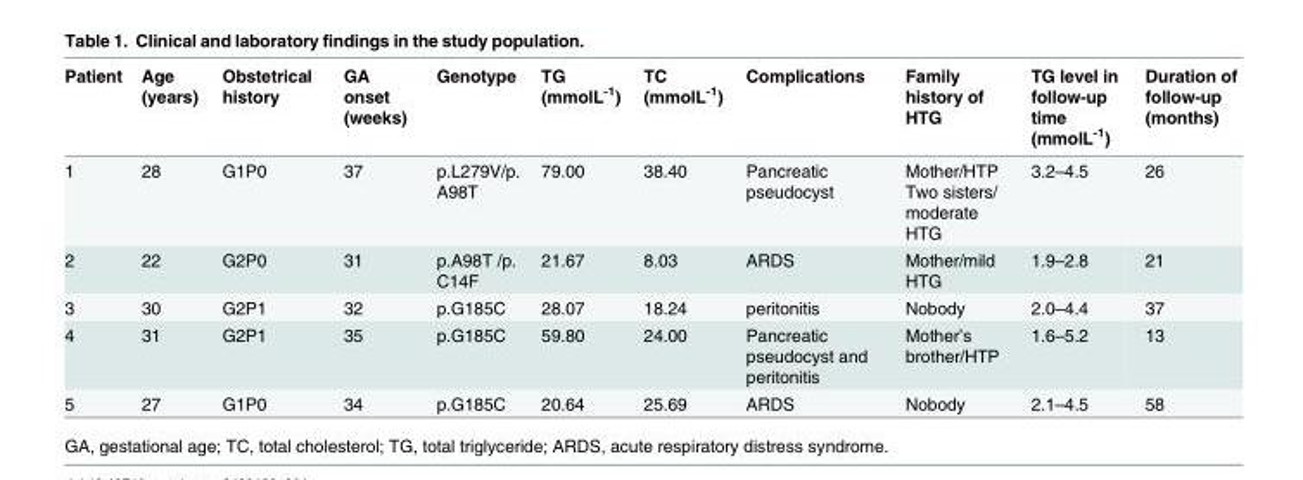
<table><thead><tr><td>Patient</td><td>Age (years)</td><td>Obstetrical history</td><td>GA onset (weeks)</td><td>Genotype</td><td>TG (mmolL<sup>-1</sup>)</td><td>TC (mmolL<sup>-1</sup>)</td><td>Complications</td><td>Family history of HTG</td><td>TG level in follow-up time (mmolL<sup>-1</sup>)</td><td>Duration of follow-up (months)</td></tr></thead><tbody><tr><td>1</td><td>28</td><td>G1P0</td><td>37</td><td>p.L279V/p. A98T</td><td>79.00</td><td>38.40</td><td>Pancreatic pseudocyst</td><td>Mother/HTP Two sisters/ moderate HTG</td><td>3.2–4.5</td><td>26</td></tr><tr><td>2</td><td>22</td><td>G2P0</td><td>31</td><td>p.A98T /p. C14F</td><td>21.67</td><td>8.03</td><td>ARDS</td><td>Mother/mild HTG</td><td>1.9–2.8</td><td>21</td></tr><tr><td>3</td><td>30</td><td>G2P1</td><td>32</td><td>p.G185C</td><td>28.07</td><td>18.24</td><td>peritonitis</td><td>Nobody</td><td>2.0–4.4</td><td>37</td></tr><tr><td>4</td><td>31</td><td>G2P1</td><td>35</td><td>p.G185C</td><td>59.80</td><td>24.00</td><td>Pancreatic pseudocyst and peritonitis</td><td>Mother’s brother/HTP</td><td>1.6–5.2</td><td>13</td></tr><tr><td>5</td><td>27</td><td>G1P0</td><td>34</td><td>p.G185C</td><td>20.64</td><td>25.69</td><td>ARDS</td><td>Nobody</td><td>2.1–4.5</td><td>58</td></tr></tbody></table>